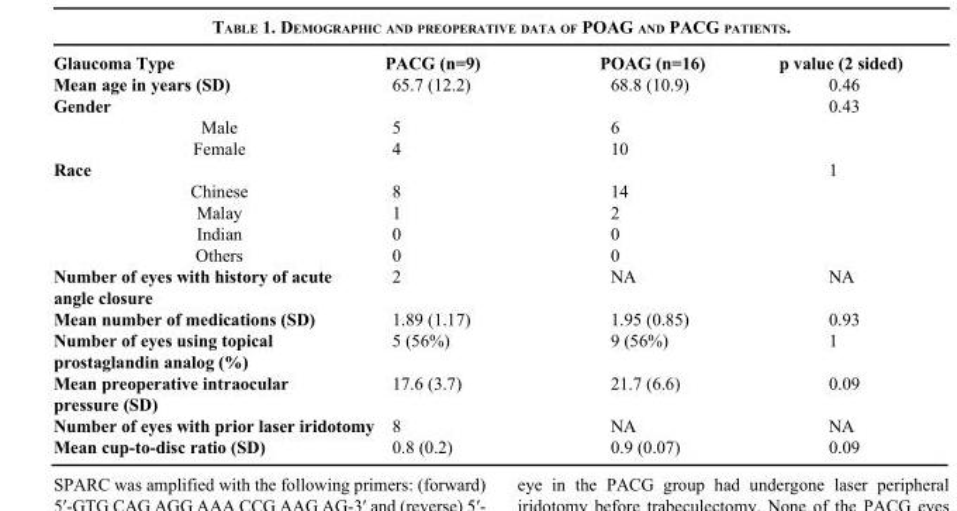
<table><thead><tr><td>Glaucoma Type</td><td>PACG (n=9)</td><td>POAG (n=16)</td><td>p value (2 sided)</td></tr></thead><tbody><tr><td>Mean age in years (SD)</td><td>65.7 (12.2)</td><td>68.8 (10.9)</td><td>0.46</td></tr><tr><td>Gender</td><td></td><td></td><td>0.43</td></tr><tr><td>Male</td><td>5</td><td>6</td><td></td></tr><tr><td>Female</td><td>4</td><td>10</td><td></td></tr><tr><td>Race</td><td></td><td></td><td>1</td></tr><tr><td>Chinese</td><td>8</td><td>14</td><td></td></tr><tr><td>Malay</td><td>1</td><td>2</td><td></td></tr><tr><td>Indian</td><td>0</td><td>0</td><td></td></tr><tr><td>Others</td><td>0</td><td>0</td><td></td></tr><tr><td>Number of eyes with history of acute angle closure</td><td>2</td><td>NA</td><td>NA</td></tr><tr><td>Mean number of medications (SD)</td><td>1.89 (1.17)</td><td>1.95 (0.85)</td><td>0.93</td></tr><tr><td>Number of eyes using topical prostaglandin analog (%)</td><td>5 (56%)</td><td>9 (56%)</td><td>1</td></tr><tr><td>Mean preoperative intraocular pressure (SD)</td><td>17.6 (3.7)</td><td>21.7 (6.6)</td><td>0.09</td></tr><tr><td>Number of eyes with prior laser iridotomy</td><td>8</td><td>NA</td><td>NA</td></tr><tr><td>Mean cup-to-disc ratio (SD)</td><td>0.8 (0.2)</td><td>0.9 (0.07)</td><td>0.09</td></tr></tbody></table>